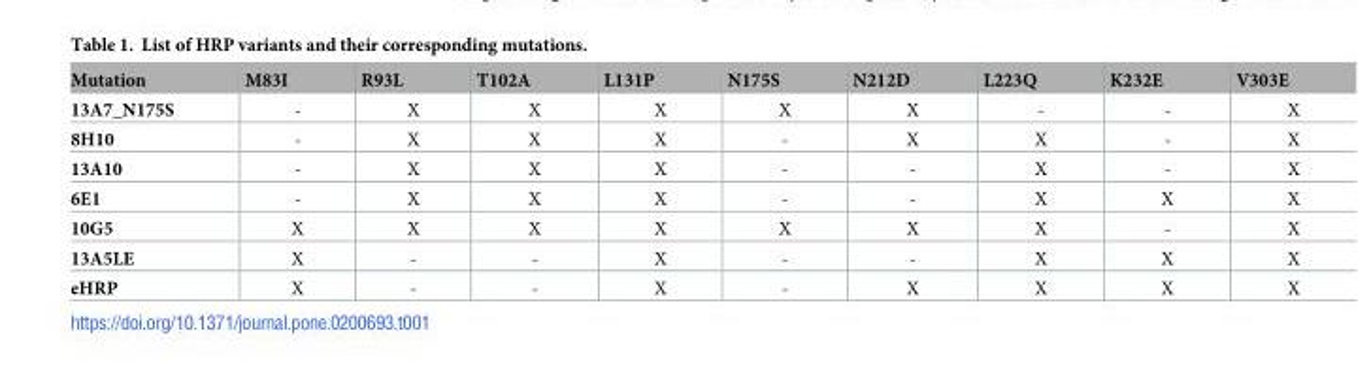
<table><thead><tr><td>Mutation</td><td>M83I</td><td>R93L</td><td>T102A</td><td>L131P</td><td>N175S</td><td>N212D</td><td>L223Q</td><td>K232E</td><td>V303E</td></tr></thead><tbody><tr><td>13A7_N175S</td><td>-</td><td>X</td><td>X</td><td>X</td><td>X</td><td>X</td><td>-</td><td>-</td><td>X</td></tr><tr><td>8H10</td><td>-</td><td>X</td><td>X</td><td>X</td><td>-</td><td>X</td><td>X</td><td>-</td><td>X</td></tr><tr><td>13A10</td><td>-</td><td>X</td><td>X</td><td>X</td><td>-</td><td>-</td><td>X</td><td>-</td><td>X</td></tr><tr><td>6E1</td><td>-</td><td>X</td><td>X</td><td>X</td><td>-</td><td>-</td><td>X</td><td>X</td><td>X</td></tr><tr><td>10G5</td><td>X</td><td>X</td><td>X</td><td>X</td><td>X</td><td>X</td><td>X</td><td>-</td><td>X</td></tr><tr><td>13A5LE</td><td>X</td><td>-</td><td>-</td><td>X</td><td>-</td><td>-</td><td>X</td><td>X</td><td>X</td></tr><tr><td>eHRP</td><td>X</td><td>-</td><td>-</td><td>X</td><td>-</td><td>X</td><td>X</td><td>X</td><td>X</td></tr></tbody></table>